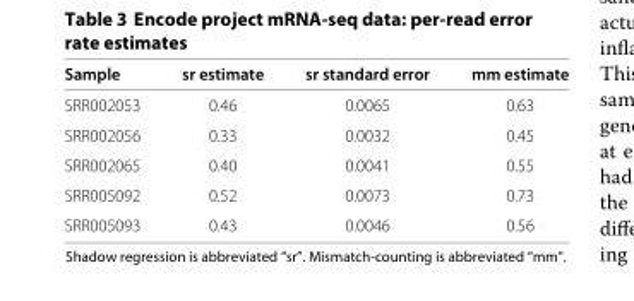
<table><thead><tr><td>Sample</td><td>sr estimate</td><td>sr standard error</td><td>mm estimate</td></tr></thead><tbody><tr><td>SRR002053</td><td>0.46</td><td>0.0065</td><td>0.63</td></tr><tr><td>SRR002056</td><td>0.33</td><td>0.0032</td><td>0.45</td></tr><tr><td>SRR002065</td><td>0.40</td><td>0.0041</td><td>0.55</td></tr><tr><td>SRR005092</td><td>0.52</td><td>0.0073</td><td>0.73</td></tr><tr><td>SRR005093</td><td>0.43</td><td>0.0046</td><td>0.56</td></tr></tbody></table>